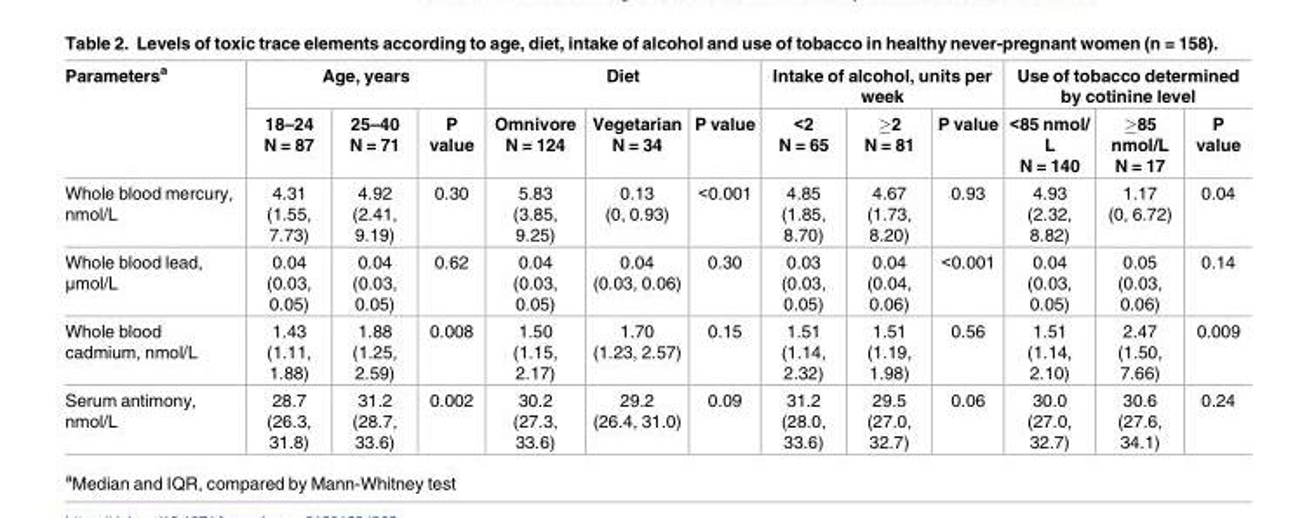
<table><thead><tr><td rowspan="2">Parameters<sup>a</sup></td><td colspan="3">Age, years</td><td colspan="3">Diet</td><td colspan="3">Intake of alcohol, units per week</td><td colspan="3">Use of tobacco determined by cotinine level</td></tr><tr><td>18–24 N = 87</td><td>25–40 N = 71</td><td>P value</td><td>Omnivore N = 124</td><td>Vegetarian N = 34</td><td>P value</td><td>&lt;2 N = 65</td><td>≥2 N = 81</td><td>P value</td><td>&lt;85 nmol/ L N = 140</td><td>≥85 nmol/L N = 17</td><td>P value</td></tr></thead><tbody><tr><td>Whole blood mercury, nmol/L</td><td>4.31 (1.55, 7.73)</td><td>4.92 (2.41, 9.19)</td><td>0.30</td><td>5.83 (3.85, 9.25)</td><td>0.13 (0, 0.93)</td><td>&lt;0.001</td><td>4.85 (1.85, 8.70)</td><td>4.67 (1.73, 8.20)</td><td>0.93</td><td>4.93 (2.32, 8.82)</td><td>1.17 (0, 6.72)</td><td>0.04</td></tr><tr><td>Whole blood lead, μmol/L</td><td>0.04 (0.03, 0.05)</td><td>0.04 (0.03, 0.05)</td><td>0.62</td><td>0.04 (0.03, 0.05)</td><td>0.04 (0.03, 0.06)</td><td>0.30</td><td>0.03 (0.03, 0.05)</td><td>0.04 (0.04, 0.06)</td><td>&lt;0.001</td><td>0.04 (0.03, 0.05)</td><td>0.05 (0.03, 0.06)</td><td>0.14</td></tr><tr><td>Whole blood cadmium, nmol/L</td><td>1.43 (1.11, 1.88)</td><td>1.88 (1.25, 2.59)</td><td>0.008</td><td>1.50 (1.15, 2.17)</td><td>1.70 (1.23, 2.57)</td><td>0.15</td><td>1.51 (1.14, 2.32)</td><td>1.51 (1.19, 1.98)</td><td>0.56</td><td>1.51 (1.14, 2.10)</td><td>2.47 (1.50, 7.66)</td><td>0.009</td></tr><tr><td>Serum antimony, nmol/L</td><td>28.7 (26.3, 31.8)</td><td>31.2 (28.7, 33.6)</td><td>0.002</td><td>30.2 (27.3, 33.6)</td><td>29.2 (26.4, 31.0)</td><td>0.09</td><td>31.2 (28.0, 33.6)</td><td>29.5 (27.0, 32.7)</td><td>0.06</td><td>30.0 (27.0, 32.7)</td><td>30.6 (27.6, 34.1)</td><td>0.24</td></tr></tbody></table>